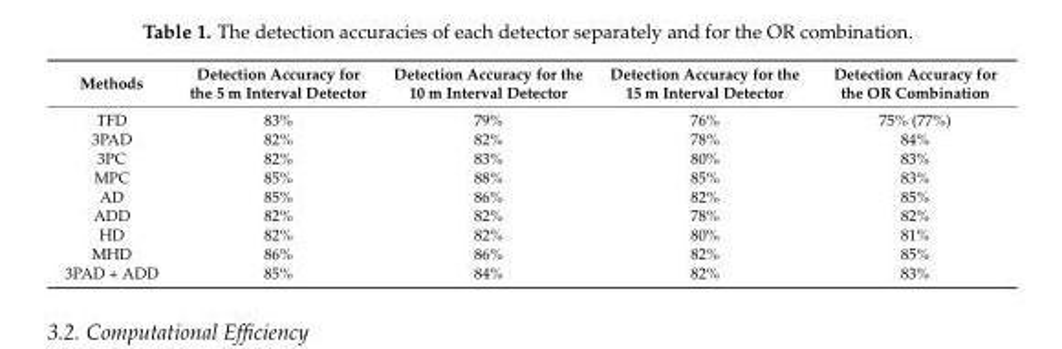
<table><thead><tr><td>Methods</td><td>Detection Accuracy for the 5 m Interval Detector</td><td>Detection Accuracy for the 10 m Interval Detector</td><td>Detection Accuracy for the 15 m Interval Detector</td><td>Detection Accuracy for the OR Combination</td></tr></thead><tbody><tr><td>TFD</td><td>83%</td><td>79%</td><td>76%</td><td>75% (77%)</td></tr><tr><td>3PAD</td><td>82%</td><td>82%</td><td>78%</td><td>84%</td></tr><tr><td>3PC</td><td>82%</td><td>83%</td><td>80%</td><td>83%</td></tr><tr><td>MPC</td><td>85%</td><td>88%</td><td>85%</td><td>83%</td></tr><tr><td>AD</td><td>85%</td><td>86%</td><td>82%</td><td>85%</td></tr><tr><td>ADD</td><td>82%</td><td>82%</td><td>78%</td><td>82%</td></tr><tr><td>HD</td><td>82%</td><td>82%</td><td>80%</td><td>81%</td></tr><tr><td>MHD</td><td>86%</td><td>86%</td><td>82%</td><td>85%</td></tr><tr><td>3PAD + ADD</td><td>85%</td><td>84%</td><td>82%</td><td>83%</td></tr></tbody></table>